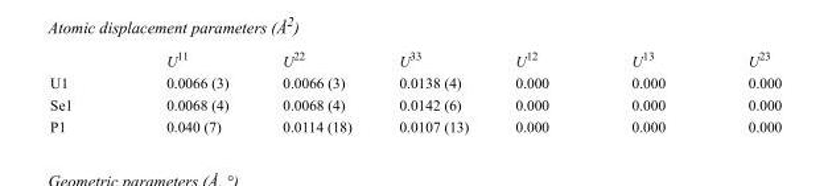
<table><thead><tr><td></td><td>U<sup>11</sup></td><td>U<sup>22</sup></td><td>U<sup>33</sup></td><td>U<sup>12</sup></td><td>U<sup>13</sup></td><td>U<sup>23</sup></td></tr></thead><tbody><tr><td>U1</td><td>0.0066 (3)</td><td>0.0066 (3)</td><td>0.0138 (4)</td><td>0.000</td><td>0.000</td><td>0.000</td></tr><tr><td>Se1</td><td>0.0068 (4)</td><td>0.0068 (4)</td><td>0.0142 (6)</td><td>0.000</td><td>0.000</td><td>0.000</td></tr><tr><td>P1</td><td>0.040 (7)</td><td>0.0114 (18)</td><td>0.0107 (13)</td><td>0.000</td><td>0.000</td><td>0.000</td></tr></tbody></table>